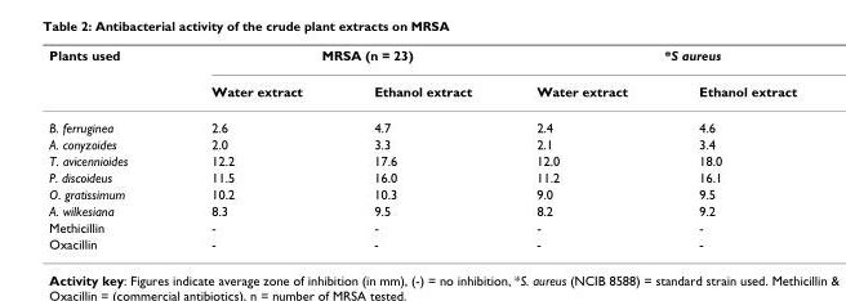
<table><thead><tr><td rowspan="2">Plants used</td><td colspan="2">MRSA (n = 23)</td><td colspan="2">*S aureus</td></tr><tr><td>Water extract</td><td>Ethanol extract</td><td>Water extract</td><td>Ethanol extract</td></tr></thead><tbody><tr><td>B. ferruginea</td><td>2.6</td><td>4.7</td><td>2.4</td><td>4.6</td></tr><tr><td>A. conyzoides</td><td>2.0</td><td>3.3</td><td>2.1</td><td>3.4</td></tr><tr><td>T. avicennioides</td><td>12.2</td><td>17.6</td><td>12.0</td><td>18.0</td></tr><tr><td>P. discoideus</td><td>11.5</td><td>16.0</td><td>11.2</td><td>16.1</td></tr><tr><td>O. gratissimum</td><td>10.2</td><td>10.3</td><td>9.0</td><td>9.5</td></tr><tr><td>A. wilkesiana</td><td>8.3</td><td>9.5</td><td>8.2</td><td>9.2</td></tr><tr><td>Methicillin</td><td>-</td><td>-</td><td>-</td><td>-</td></tr><tr><td>Oxacillin</td><td>-</td><td>-</td><td>-</td><td>-</td></tr></tbody></table>